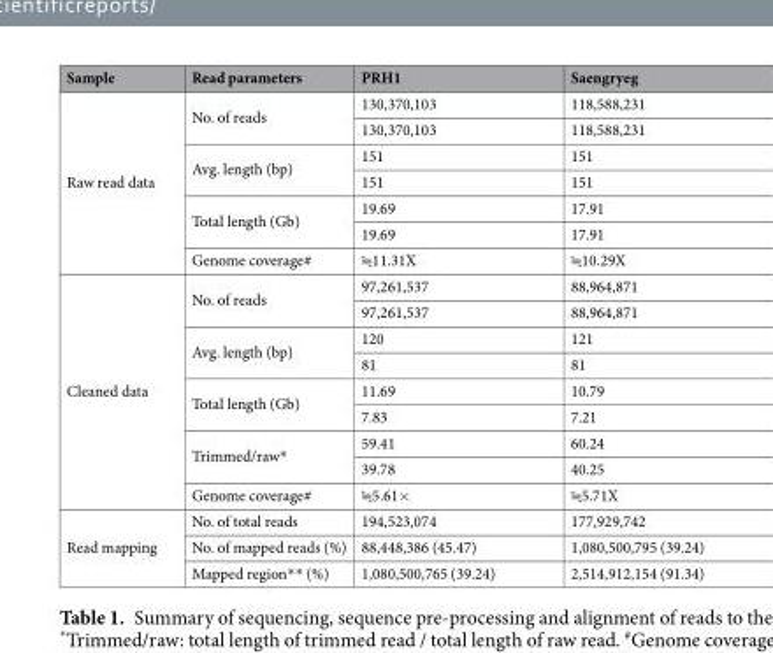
<table><thead><tr><td>Sample</td><td>Read parameters</td><td>PRH1</td><td>Saengryeg</td></tr></thead><tbody><tr><td rowspan="7">Raw read data</td><td rowspan="2">No. of reads</td><td>130,370,103</td><td>118,588,231</td></tr><tr><td>130,370,103</td><td>118,588,231</td></tr><tr><td rowspan="2">Avg. length (bp)</td><td>151</td><td>151</td></tr><tr><td>151</td><td>151</td></tr><tr><td rowspan="2">Total length (Gb)</td><td>19.69</td><td>17.91</td></tr><tr><td>19.69</td><td>17.91</td></tr><tr><td>Genome coverage#</td><td>≒11.31X</td><td>≒10.29X</td></tr><tr><td rowspan="9">Cleaned data</td><td rowspan="2">No. of reads</td><td>97,261,537</td><td>88,964,871</td></tr><tr><td>97,261,537</td><td>88,964,871</td></tr><tr><td rowspan="2">Avg. length (bp)</td><td>120</td><td>121</td></tr><tr><td>81</td><td>81</td></tr><tr><td rowspan="2">Total length (Gb)</td><td>11.69</td><td>10.79</td></tr><tr><td>7.83</td><td>7.21</td></tr><tr><td rowspan="2">Trimmed/raw*</td><td>59.41</td><td>60.24</td></tr><tr><td>39.78</td><td>40.25</td></tr><tr><td>Genome coverage#</td><td>≒5.61×</td><td>≒5.71X</td></tr><tr><td rowspan="3">Read mapping</td><td>No. of total reads</td><td>194,523,074</td><td>177,929,742</td></tr><tr><td>No. of mapped reads (%)</td><td>88,448,386 (45.47)</td><td>1,080,500,795 (39.24)</td></tr><tr><td>Mapped region** (%)</td><td>1,080,500,765 (39.24)</td><td>2,514,912,154 (91.34)</td></tr></tbody></table>